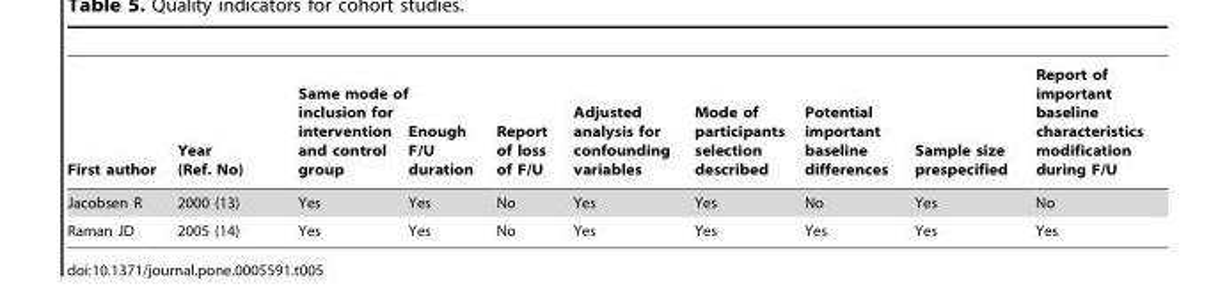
<table><thead><tr><td>First author</td><td>Year (Ref. No)</td><td>Same mode of inclusion for intervention and control group</td><td>Enough F/U duration</td><td>Report of loss of F/U</td><td>Adjusted analysis for confounding variables</td><td>Mode of participants selection described</td><td>Potential important baseline differences</td><td>Sample size prespecified</td><td>Report of important baseline characteristics modification during F/U</td></tr></thead><tbody><tr><td>Jacobsen R</td><td>2000 (13)</td><td>Yes</td><td>Yes</td><td>No</td><td>Yes</td><td>Yes</td><td>No</td><td>Yes</td><td>No</td></tr><tr><td>Raman JD</td><td>2005 (14)</td><td>Yes</td><td>Yes</td><td>No</td><td>Yes</td><td>Yes</td><td>Yes</td><td>Yes</td><td>Yes</td></tr></tbody></table>